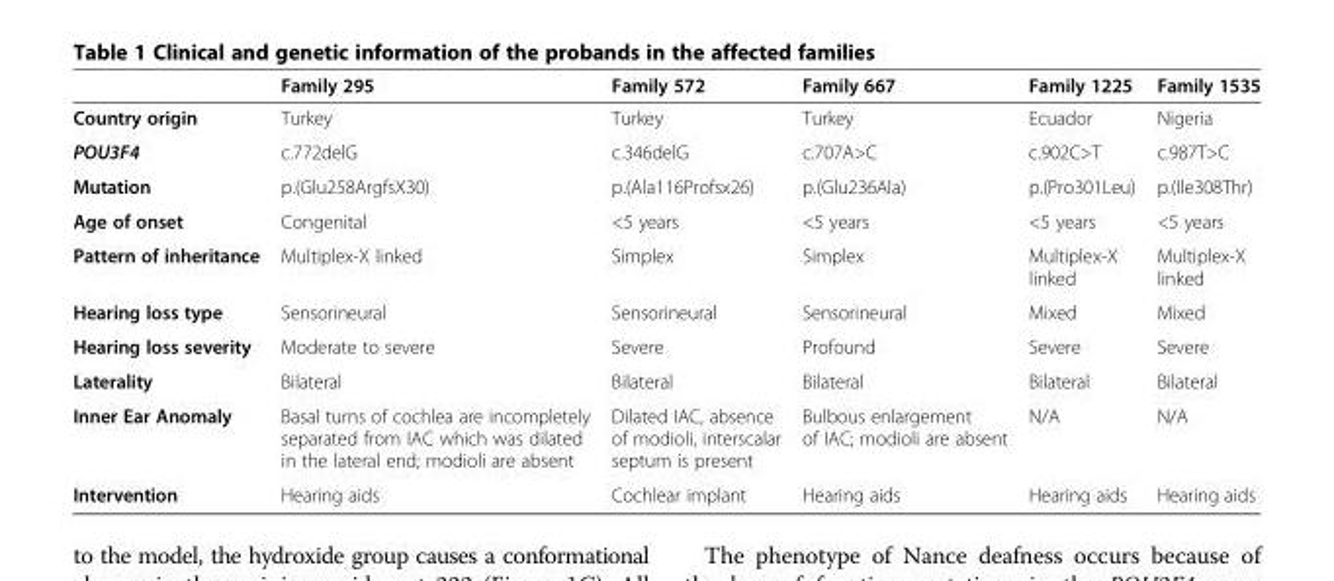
<table><thead><tr><td></td><td>Family 295</td><td>Family 572</td><td>Family 667</td><td>Family 1225</td><td>Family 1535</td></tr></thead><tbody><tr><td>Country origin</td><td>Turkey</td><td>Turkey</td><td>Turkey</td><td>Ecuador</td><td>Nigeria</td></tr><tr><td>POU3F4</td><td>c.772delG</td><td>c.346delG</td><td>c.707A&gt;C</td><td>c.902C&gt;T</td><td>c.987T&gt;C</td></tr><tr><td>Mutation</td><td>p.(Glu258ArgfsX30)</td><td>p.(Ala116Profsx26)</td><td>p.(Glu236Ala)</td><td>p.(Pro301Leu)</td><td>p.(Ile308Thr)</td></tr><tr><td>Age of onset</td><td>Congenital</td><td>&lt;5 years</td><td>&lt;5 years</td><td>&lt;5 years</td><td>&lt;5 years</td></tr><tr><td>Pattern of inheritance</td><td>Multiplex-X linked</td><td>Simplex</td><td>Simplex</td><td>Multiplex-X linked</td><td>Multiplex-X linked</td></tr><tr><td>Hearing loss type</td><td>Sensorineural</td><td>Sensorineural</td><td>Sensorineural</td><td>Mixed</td><td>Mixed</td></tr><tr><td>Hearing loss severity</td><td>Moderate to severe</td><td>Severe</td><td>Profound</td><td>Severe</td><td>Severe</td></tr><tr><td>Laterality</td><td>Bilateral</td><td>Bilateral</td><td>Bilateral</td><td>Bilateral</td><td>Bilateral</td></tr><tr><td>Inner Ear Anomaly</td><td>Basal turns of cochlea are incompletely separated from IAC which was dilated in the lateral end; modioli are absent</td><td>Dilated IAC, absence of modioli, interscalar septum is present</td><td>Bulbous enlargement of IAC; modioli are absent</td><td>N/A</td><td>N/A</td></tr><tr><td>Intervention</td><td>Hearing aids</td><td>Cochlear implant</td><td>Hearing aids</td><td>Hearing aids</td><td>Hearing aids</td></tr></tbody></table>